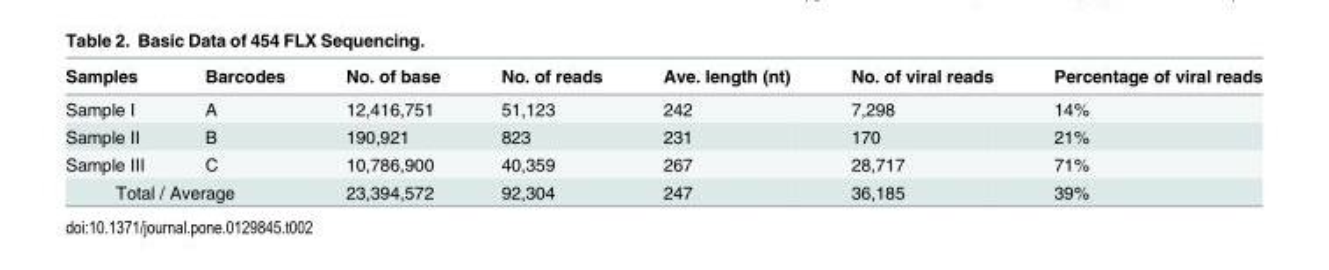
<table><thead><tr><td>Samples</td><td>Barcodes</td><td>No. of base</td><td>No. of reads</td><td>Ave. length (nt)</td><td>No. of viral reads</td><td>Percentage of viral reads</td></tr></thead><tbody><tr><td>Sample I</td><td>A</td><td>12,416,751</td><td>51,123</td><td>242</td><td>7,298</td><td>14%</td></tr><tr><td>Sample II</td><td>B</td><td>190,921</td><td>823</td><td>231</td><td>170</td><td>21%</td></tr><tr><td>Sample III</td><td>C</td><td>10,786,900</td><td>40,359</td><td>267</td><td>28,717</td><td>71%</td></tr><tr><td colspan="2">Total / Average</td><td>23,394,572</td><td>92,304</td><td>247</td><td>36,185</td><td>39%</td></tr></tbody></table>